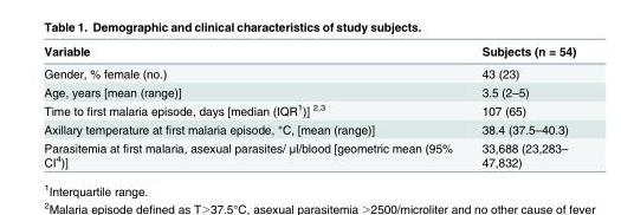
<table><thead><tr><td>Variable</td><td>Subjects (n = 54)</td></tr></thead><tbody><tr><td>Gender, % female (no.)</td><td>43 (23)</td></tr><tr><td>Age, years [mean (range)]</td><td>3.5 (2–5)</td></tr><tr><td>Time to first malaria episode, days [median (IQR<sup>1</sup>)] <sup>2,3</sup></td><td>107 (65)</td></tr><tr><td>Axillary temperature at first malaria episode, °C, [mean (range)]</td><td>38.4 (37.5–40.3)</td></tr><tr><td>Parasitemia at first malaria, asexual parasites/ μl/blood [geometric mean (95% CI<sup>4</sup>)]</td><td>33,688 (23,283– 47,832)</td></tr></tbody></table>